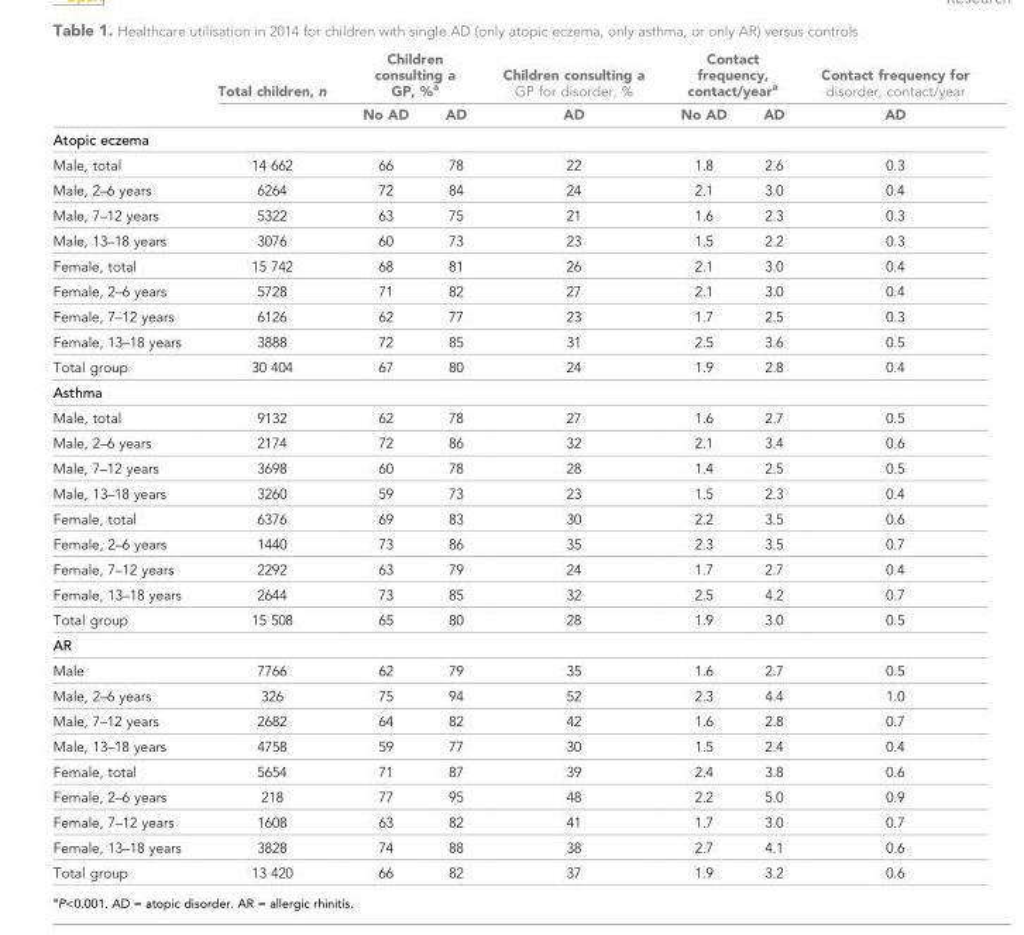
<table><thead><tr><td rowspan="2"></td><td rowspan="2">Total children, n</td><td colspan="2">Children consulting a GP, %<sup>a</sup></td><td rowspan="2">Children consulting a GP for disorder, % AD</td><td colspan="2">Contact frequency, contact/year<sup>a</sup></td><td rowspan="2">Contact frequency for disorder, contact/year AD</td></tr><tr><td>No AD</td><td>AD</td><td>No AD</td><td>AD</td></tr></thead><tbody><tr><td colspan="8">Atopic eczema</td></tr><tr><td>Male, total</td><td>14 662</td><td>66</td><td>78</td><td>22</td><td>1.8</td><td>2.6</td><td>0.3</td></tr><tr><td>Male, 2–6 years</td><td>6264</td><td>72</td><td>84</td><td>24</td><td>2.1</td><td>3.0</td><td>0.4</td></tr><tr><td>Male, 7–12 years</td><td>5322</td><td>63</td><td>75</td><td>21</td><td>1.6</td><td>2.3</td><td>0.3</td></tr><tr><td>Male, 13–18 years</td><td>3076</td><td>60</td><td>73</td><td>23</td><td>1.5</td><td>2.2</td><td>0.3</td></tr><tr><td>Female, total</td><td>15 742</td><td>68</td><td>81</td><td>26</td><td>2.1</td><td>3.0</td><td>0.4</td></tr><tr><td>Female, 2–6 years</td><td>5728</td><td>71</td><td>82</td><td>27</td><td>2.1</td><td>3.0</td><td>0.4</td></tr><tr><td>Female, 7–12 years</td><td>6126</td><td>62</td><td>77</td><td>23</td><td>1.7</td><td>2.5</td><td>0.3</td></tr><tr><td>Female, 13–18 years</td><td>3888</td><td>72</td><td>85</td><td>31</td><td>2.5</td><td>3.6</td><td>0.5</td></tr><tr><td>Total group</td><td>30 404</td><td>67</td><td>80</td><td>24</td><td>1.9</td><td>2.8</td><td>0.4</td></tr><tr><td colspan="8">Asthma</td></tr><tr><td>Male, total</td><td>9132</td><td>62</td><td>78</td><td>27</td><td>1.6</td><td>2.7</td><td>0.5</td></tr><tr><td>Male, 2–6 years</td><td>2174</td><td>72</td><td>86</td><td>32</td><td>2.1</td><td>3.4</td><td>0.6</td></tr><tr><td>Male, 7–12 years</td><td>3698</td><td>60</td><td>78</td><td>28</td><td>1.4</td><td>2.5</td><td>0.5</td></tr><tr><td>Male, 13–18 years</td><td>3260</td><td>59</td><td>73</td><td>23</td><td>1.5</td><td>2.3</td><td>0.4</td></tr><tr><td>Female, total</td><td>6376</td><td>69</td><td>83</td><td>30</td><td>2.2</td><td>3.5</td><td>0.6</td></tr><tr><td>Female, 2–6 years</td><td>1440</td><td>73</td><td>86</td><td>35</td><td>2.3</td><td>3.5</td><td>0.7</td></tr><tr><td>Female, 7–12 years</td><td>2292</td><td>63</td><td>79</td><td>24</td><td>1.7</td><td>2.7</td><td>0.4</td></tr><tr><td>Female, 13–18 years</td><td>2644</td><td>73</td><td>85</td><td>32</td><td>2.5</td><td>4.2</td><td>0.7</td></tr><tr><td>Total group</td><td>15 508</td><td>65</td><td>80</td><td>28</td><td>1.9</td><td>3.0</td><td>0.5</td></tr><tr><td colspan="8">AR</td></tr><tr><td>Male</td><td>7766</td><td>62</td><td>79</td><td>35</td><td>1.6</td><td>2.7</td><td>0.5</td></tr><tr><td>Male, 2–6 years</td><td>326</td><td>75</td><td>94</td><td>52</td><td>2.3</td><td>4.4</td><td>1.0</td></tr><tr><td>Male, 7–12 years</td><td>2682</td><td>64</td><td>82</td><td>42</td><td>1.6</td><td>2.8</td><td>0.7</td></tr><tr><td>Male, 13–18 years</td><td>4758</td><td>59</td><td>77</td><td>30</td><td>1.5</td><td>2.4</td><td>0.4</td></tr><tr><td>Female, total</td><td>5654</td><td>71</td><td>87</td><td>39</td><td>2.4</td><td>3.8</td><td>0.6</td></tr><tr><td>Female, 2–6 years</td><td>218</td><td>77</td><td>95</td><td>48</td><td>2.2</td><td>5.0</td><td>0.9</td></tr><tr><td>Female, 7–12 years</td><td>1608</td><td>63</td><td>82</td><td>41</td><td>1.7</td><td>3.0</td><td>0.7</td></tr><tr><td>Female, 13–18 years</td><td>3828</td><td>74</td><td>88</td><td>38</td><td>2.7</td><td>4.1</td><td>0.6</td></tr><tr><td>Total group</td><td>13 420</td><td>66</td><td>82</td><td>37</td><td>1.9</td><td>3.2</td><td>0.6</td></tr></tbody></table>